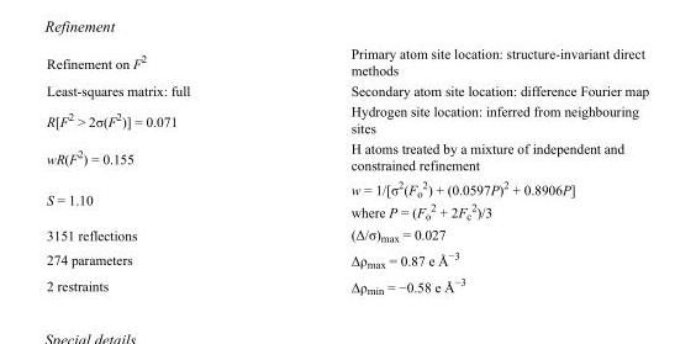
<table><tbody><tr><td>Refinement on F<sup>2</sup></td><td>Primary atom site location: structure-invariant direct methods</td></tr><tr><td>Least-squares matrix: full</td><td>Secondary atom site location: difference Fourier map</td></tr><tr><td>R[F<sup>2</sup> &gt; 2σ(F<sup>2</sup>)] = 0.071</td><td>Hydrogen site location: inferred from neighbouring sites</td></tr><tr><td>wR(F<sup>2</sup>) = 0.155</td><td>H atoms treated by a mixture of independent and constrained refinement</td></tr><tr><td>S = 1.10</td><td>w = 1/[σ<sup>2</sup>(F<sub>o</sub> <sup>2</sup>) + (0.0597P)<sup>2</sup> + 0.8906P] where P = (F<sub>o</sub> <sup>2</sup> + 2F<sub>c</sub> <sup>2</sup>)/3</td></tr><tr><td>3151 reflections</td><td>(Δ/σ)<sub>max</sub> = 0.027</td></tr><tr><td>274 parameters</td><td>Δρ<sub>max</sub> = 0.87 e Å<sup>−3</sup></td></tr><tr><td>2 restraints</td><td>Δρ<sub>min</sub> = −0.58 e Å<sup>−3</sup></td></tr></tbody></table>